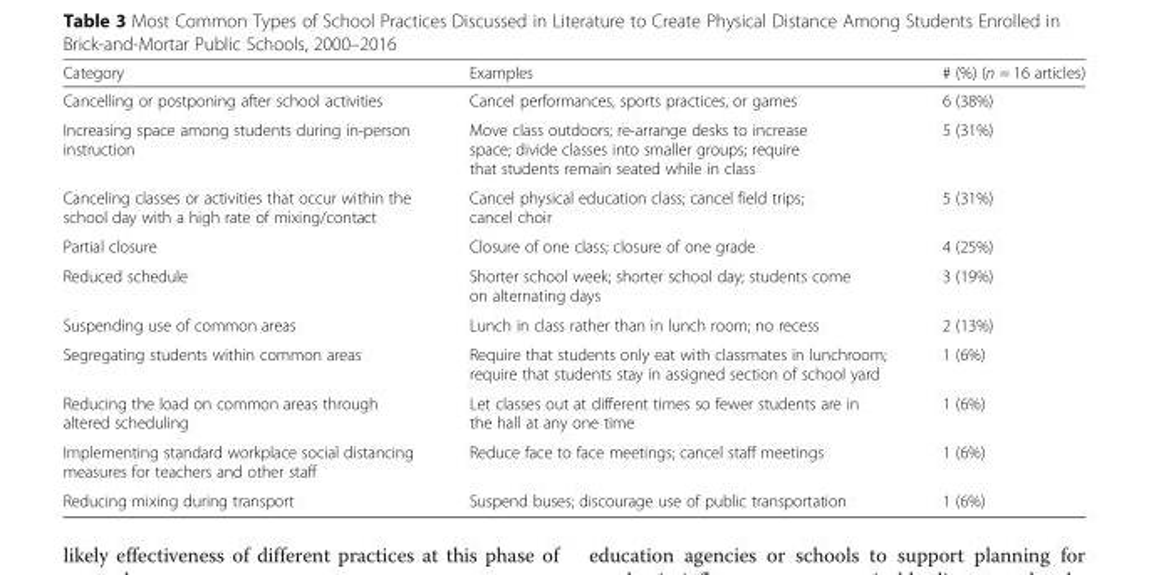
<table><thead><tr><td>Category</td><td>Examples</td><td># (%) (n = 16 articles)</td></tr></thead><tbody><tr><td>Cancelling or postponing after school activities</td><td>Cancel performances, sports practices, or games</td><td>6 (38%)</td></tr><tr><td>Increasing space among students during in-person instruction</td><td>Move class outdoors; re-arrange desks to increase space; divide classes into smaller groups; require that students remain seated while in class</td><td>5 (31%)</td></tr><tr><td>Canceling classes or activities that occur within the school day with a high rate of mixing/contact</td><td>Cancel physical education class; cancel field trips; cancel choir</td><td>5 (31%)</td></tr><tr><td>Partial closure</td><td>Closure of one class; closure of one grade</td><td>4 (25%)</td></tr><tr><td>Reduced schedule</td><td>Shorter school week; shorter school day; students come on alternating days</td><td>3 (19%)</td></tr><tr><td>Suspending use of common areas</td><td>Lunch in class rather than in lunch room; no recess</td><td>2 (13%)</td></tr><tr><td>Segregating students within common areas</td><td>Require that students only eat with classmates in lunchroom; require that students stay in assigned section of school yard</td><td>1 (6%)</td></tr><tr><td>Reducing the load on common areas through altered scheduling</td><td>Let classes out at different times so fewer students are in the hall at any one time</td><td>1 (6%)</td></tr><tr><td>Implementing standard workplace social distancing measures for teachers and other staff</td><td>Reduce face to face meetings; cancel staff meetings</td><td>1 (6%)</td></tr><tr><td>Reducing mixing during transport</td><td>Suspend buses; discourage use of public transportation</td><td>1 (6%)</td></tr></tbody></table>